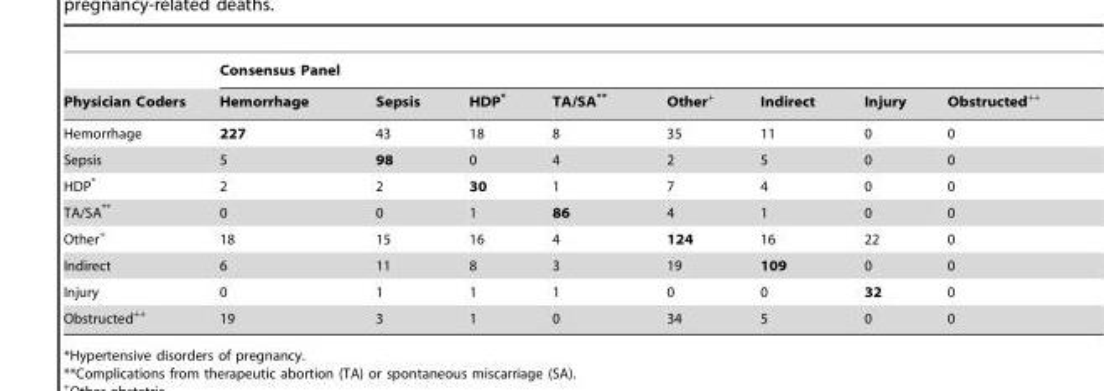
<table><thead><tr><td rowspan="2">Physician Coders</td><td colspan="8">Consensus Panel</td></tr><tr><td>Hemorrhage</td><td>Sepsis</td><td>HDP*</td><td>TA/SA**</td><td>Other+</td><td>Indirect</td><td>Injury</td><td>Obstructed++</td></tr></thead><tbody><tr><td>Hemorrhage</td><td>227</td><td>43</td><td>18</td><td>8</td><td>35</td><td>11</td><td>0</td><td>0</td></tr><tr><td>Sepsis</td><td>5</td><td>98</td><td>0</td><td>4</td><td>2</td><td>5</td><td>0</td><td>0</td></tr><tr><td>HDP*</td><td>2</td><td>2</td><td>30</td><td>1</td><td>7</td><td>4</td><td>0</td><td>0</td></tr><tr><td>TA/SA**</td><td>0</td><td>0</td><td>1</td><td>86</td><td>4</td><td>1</td><td>0</td><td>0</td></tr><tr><td>Other+</td><td>18</td><td>15</td><td>16</td><td>4</td><td>124</td><td>16</td><td>22</td><td>0</td></tr><tr><td>Indirect</td><td>6</td><td>11</td><td>8</td><td>3</td><td>19</td><td>109</td><td>0</td><td>0</td></tr><tr><td>Injury</td><td>0</td><td>1</td><td>1</td><td>1</td><td>0</td><td>0</td><td>32</td><td>0</td></tr><tr><td>Obstructed++</td><td>19</td><td>3</td><td>1</td><td>0</td><td>34</td><td>5</td><td>0</td><td>0</td></tr></tbody></table>